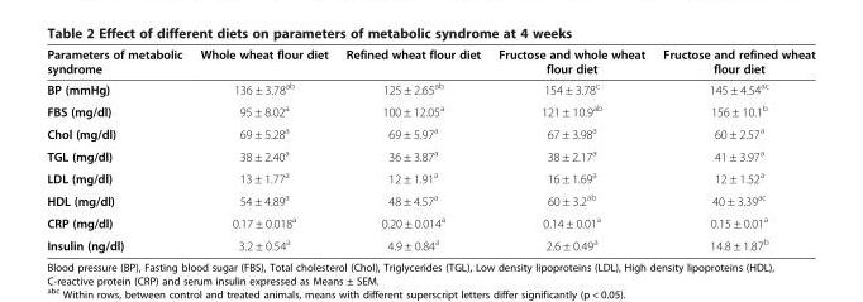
<table><thead><tr><td>Parameters of metabolic syndrome</td><td>Whole wheat flour diet</td><td>Refined wheat flour diet</td><td>Fructose and whole wheat flour diet</td><td>Fructose and refined wheat flour diet</td></tr></thead><tbody><tr><td>BP (mmHg)</td><td>136 ± 3.78<sup>ab</sup></td><td>125 ± 2.65<sup>ab</sup></td><td>154 ± 3.78<sup>c</sup></td><td>145 ± 4.54<sup>ac</sup></td></tr><tr><td>FBS (mg/dl)</td><td>95 ± 8.02<sup>a</sup></td><td>100 ± 12.05<sup>a</sup></td><td>121 ± 10.9<sup>ab</sup></td><td>156 ± 10.1<sup>b</sup></td></tr><tr><td>Chol (mg/dl)</td><td>69 ± 5.28<sup>a</sup></td><td>69 ± 5.97<sup>a</sup></td><td>67 ± 3.98<sup>a</sup></td><td>60 ± 2.57<sup>a</sup></td></tr><tr><td>TGL (mg/dl)</td><td>38 ± 2.40<sup>a</sup></td><td>36 ± 3.87<sup>a</sup></td><td>38 ± 2.17<sup>a</sup></td><td>41 ± 3.97<sup>a</sup></td></tr><tr><td>LDL (mg/dl)</td><td>13 ± 1.77<sup>a</sup></td><td>12 ± 1.91<sup>a</sup></td><td>16 ± 1.69<sup>a</sup></td><td>12 ± 1.52<sup>a</sup></td></tr><tr><td>HDL (mg/dl)</td><td>54 ± 4.89<sup>a</sup></td><td>48 ± 4.57<sup>a</sup></td><td>60 ± 3.2<sup>ab</sup></td><td>40 ± 3.39<sup>ac</sup></td></tr><tr><td>CRP (mg/dl)</td><td>0.17 ± 0.018<sup>a</sup></td><td>0.20 ± 0.014<sup>a</sup></td><td>0.14 ± 0.01<sup>a</sup></td><td>0.15 ± 0.01<sup>a</sup></td></tr><tr><td>Insulin (ng/dl)</td><td>3.2 ± 0.54<sup>a</sup></td><td>4.9 ± 0.84<sup>a</sup></td><td>2.6 ± 0.49<sup>a</sup></td><td>14.8 ± 1.87<sup>b</sup></td></tr></tbody></table>